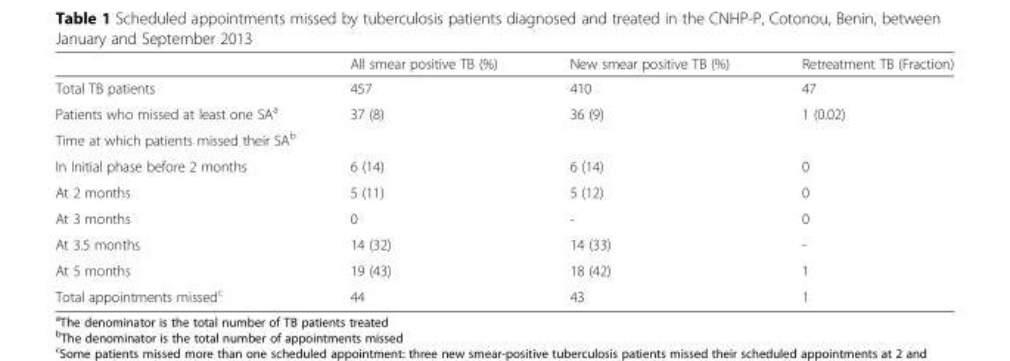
<table><thead><tr><td></td><td>All smear positive TB (%)</td><td>New smear positive TB (%)</td><td>Retreatment TB (Fraction)</td></tr></thead><tbody><tr><td>Total TB patients</td><td>457</td><td>410</td><td>47</td></tr><tr><td>Patients who missed at least one SA<sup>a</sup></td><td>37 (8)</td><td>36 (9)</td><td>1 (0.02)</td></tr><tr><td colspan="4">Time at which patients missed their SA<sup>b</sup></td></tr><tr><td>In Initial phase before 2 months</td><td>6 (14)</td><td>6 (14)</td><td>0</td></tr><tr><td>At 2 months</td><td>5 (11)</td><td>5 (12)</td><td>0</td></tr><tr><td>At 3 months</td><td>0</td><td>-</td><td>0</td></tr><tr><td>At 3.5 months</td><td>14 (32)</td><td>14 (33)</td><td>-</td></tr><tr><td>At 5 months</td><td>19 (43)</td><td>18 (42)</td><td>1</td></tr><tr><td>Total appointments missed<sup>c</sup></td><td>44</td><td>43</td><td>1</td></tr></tbody></table>